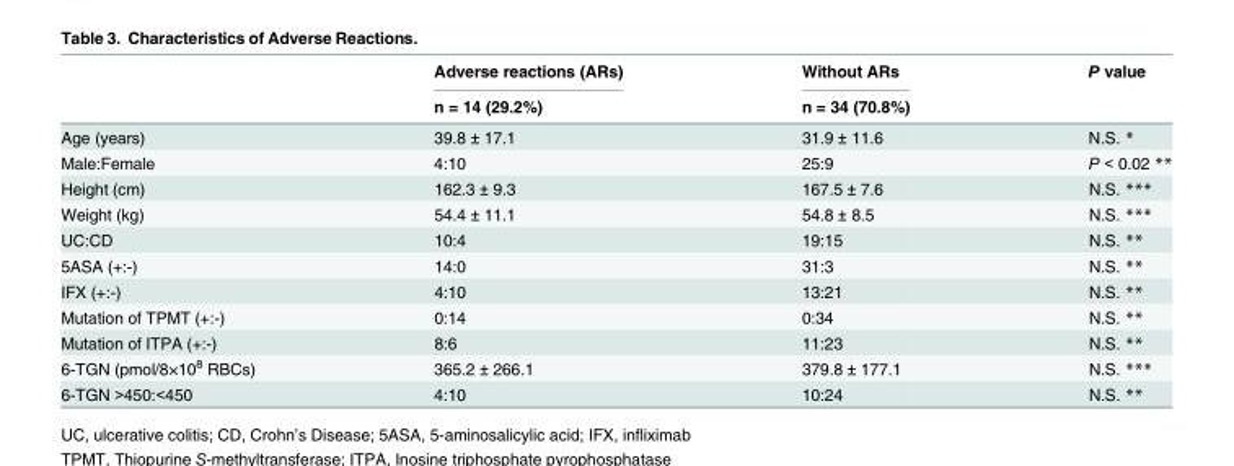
<table><thead><tr><td rowspan="2"></td><td rowspan="2">Adverse reactions (ARs) n = 14 (29.2%)</td><td rowspan="2">Without ARs n = 34 (70.8%)</td><td rowspan="2">P value</td></tr><tr></tr></thead><tbody><tr><td>Age (years)</td><td>39.8 ± 17.1</td><td>31.9 ± 11.6</td><td>N.S. *</td></tr><tr><td>Male:Female</td><td>4:10</td><td>25:9</td><td>P &lt; 0.02 **</td></tr><tr><td>Height (cm)</td><td>162.3 ± 9.3</td><td>167.5 ± 7.6</td><td>N.S. ***</td></tr><tr><td>Weight (kg)</td><td>54.4 ± 11.1</td><td>54.8 ± 8.5</td><td>N.S. ***</td></tr><tr><td>UC:CD</td><td>10:4</td><td>19:15</td><td>N.S. **</td></tr><tr><td>5ASA (+:-)</td><td>14:0</td><td>31:3</td><td>N.S. **</td></tr><tr><td>IFX (+:-)</td><td>4:10</td><td>13:21</td><td>N.S. **</td></tr><tr><td>Mutation of TPMT (+:-)</td><td>0:14</td><td>0:34</td><td>N.S. **</td></tr><tr><td>Mutation of ITPA (+:-)</td><td>8:6</td><td>11:23</td><td>N.S. **</td></tr><tr><td>6-TGN (pmol/8×10<sup>8</sup> RBCs)</td><td>365.2 ± 266.1</td><td>379.8 ± 177.1</td><td>N.S. ***</td></tr><tr><td>6-TGN &gt;450:&lt;450</td><td>4:10</td><td>10:24</td><td>N.S. **</td></tr></tbody></table>